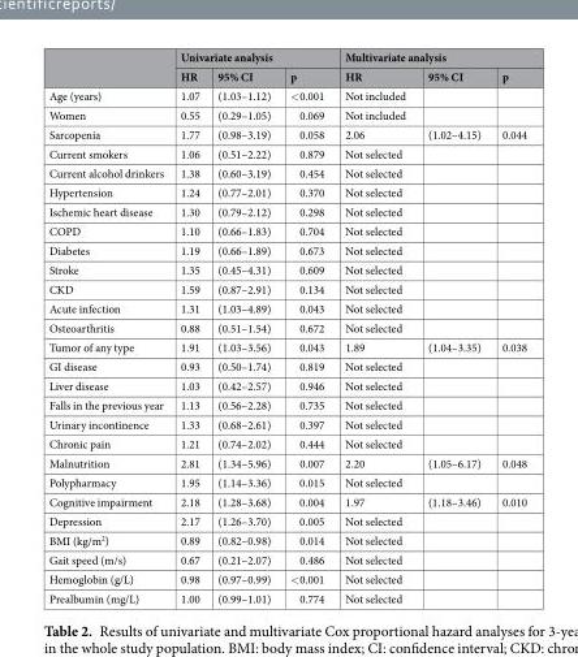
<table><thead><tr><td rowspan="2"></td><td colspan="3">Univariate analysis</td><td colspan="3">Multivariate analysis</td></tr><tr><td>HR</td><td>95% CI</td><td>p</td><td>HR</td><td>95% CI</td><td>p</td></tr></thead><tbody><tr><td>Age (years)</td><td>1.07</td><td>(1.03–1.12)</td><td>&lt;0.001</td><td>Not included</td><td></td><td></td></tr><tr><td>Women</td><td>0.55</td><td>(0.29–1.05)</td><td>0.069</td><td>Not included</td><td></td><td></td></tr><tr><td>Sarcopenia</td><td>1.77</td><td>(0.98–3.19)</td><td>0.058</td><td>2.06</td><td>(1.02–4.15)</td><td>0.044</td></tr><tr><td>Current smokers</td><td>1.06</td><td>(0.51–2.22)</td><td>0.879</td><td>Not selected</td><td></td><td></td></tr><tr><td>Current alcohol drinkers</td><td>1.38</td><td>(0.60–3.19)</td><td>0.454</td><td>Not selected</td><td></td><td></td></tr><tr><td>Hypertension</td><td>1.24</td><td>(0.77–2.01)</td><td>0.370</td><td>Not selected</td><td></td><td></td></tr><tr><td>Ischemic heart disease</td><td>1.30</td><td>(0.79–2.12)</td><td>0.298</td><td>Not selected</td><td></td><td></td></tr><tr><td>COPD</td><td>1.10</td><td>(0.66–1.83)</td><td>0.704</td><td>Not selected</td><td></td><td></td></tr><tr><td>Diabetes</td><td>1.19</td><td>(0.66–1.89)</td><td>0.673</td><td>Not selected</td><td></td><td></td></tr><tr><td>Stroke</td><td>1.35</td><td>(0.45–4.31)</td><td>0.609</td><td>Not selected</td><td></td><td></td></tr><tr><td>CKD</td><td>1.59</td><td>(0.87–2.91)</td><td>0.134</td><td>Not selected</td><td></td><td></td></tr><tr><td>Acute infection</td><td>1.31</td><td>(1.03–4.89)</td><td>0.043</td><td>Not selected</td><td></td><td></td></tr><tr><td>Osteoarthritis</td><td>0.88</td><td>(0.51–1.54)</td><td>0.672</td><td>Not selected</td><td></td><td></td></tr><tr><td>Tumor of any type</td><td>1.91</td><td>(1.03–3.56)</td><td>0.043</td><td>1.89</td><td>(1.04–3.35)</td><td>0.038</td></tr><tr><td>GI disease</td><td>0.93</td><td>(0.50–1.74)</td><td>0.819</td><td>Not selected</td><td></td><td></td></tr><tr><td>Liver disease</td><td>1.03</td><td>(0.42–2.57)</td><td>0.946</td><td>Not selected</td><td></td><td></td></tr><tr><td>Falls in the previous year</td><td>1.13</td><td>(0.56–2.28)</td><td>0.735</td><td>Not selected</td><td></td><td></td></tr><tr><td>Urinary incontinence</td><td>1.33</td><td>(0.68–2.61)</td><td>0.397</td><td>Not selected</td><td></td><td></td></tr><tr><td>Chronic pain</td><td>1.21</td><td>(0.74–2.02)</td><td>0.444</td><td>Not selected</td><td></td><td></td></tr><tr><td>Malnutrition</td><td>2.81</td><td>(1.34–5.96)</td><td>0.007</td><td>2.20</td><td>(1.05–6.17)</td><td>0.048</td></tr><tr><td>Polypharmacy</td><td>1.95</td><td>(1.14–3.36)</td><td>0.015</td><td>Not selected</td><td></td><td></td></tr><tr><td>Cognitive impairment</td><td>2.18</td><td>(1.28–3.68)</td><td>0.004</td><td>1.97</td><td>(1.18–3.46)</td><td>0.010</td></tr><tr><td>Depression</td><td>2.17</td><td>(1.26–3.70)</td><td>0.005</td><td>Not selected</td><td></td><td></td></tr><tr><td>BMI (kg/m<sup>2</sup>)</td><td>0.89</td><td>(0.82–0.98)</td><td>0.014</td><td>Not selected</td><td></td><td></td></tr><tr><td>Gait speed (m/s)</td><td>0.67</td><td>(0.21–2.07)</td><td>0.486</td><td>Not selected</td><td></td><td></td></tr><tr><td>Hemoglobin (g/L)</td><td>0.98</td><td>(0.97–0.99)</td><td>&lt;0.001</td><td>Not selected</td><td></td><td></td></tr><tr><td>Prealbumin (mg/L)</td><td>1.00</td><td>(0.99–1.01)</td><td>0.774</td><td>Not selected</td><td></td><td></td></tr></tbody></table>